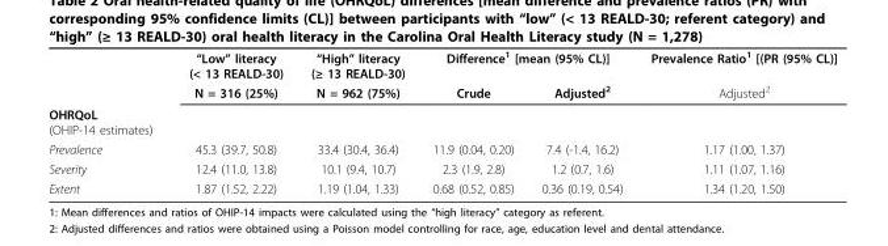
<table><thead><tr><td rowspan="2"></td><td rowspan="2">“Low” literacy (&lt; 13 REALD-30) N = 316 (25%)</td><td rowspan="2">“High” literacy (≥ 13 REALD-30) N = 962 (75%)</td><td colspan="2">Difference<sup>1</sup> [mean (95% CL)]</td><td rowspan="2">Prevalence Ratio1 [(PR (95% CL)] Adjusted2</td></tr><tr><td>Crude</td><td>Adjusted2</td></tr></thead><tbody><tr><td colspan="6">OHRQoL (OHIP-14 estimates)</td></tr><tr><td>Prevalence</td><td>45.3 (39.7, 50.8)</td><td>33.4 (30.4, 36.4)</td><td>11.9 (0.04, 0.20)</td><td>7.4 (-1.4, 16.2)</td><td>1.17 (1.00, 1.37)</td></tr><tr><td>Severity</td><td>12.4 (11.0, 13.8)</td><td>10.1 (9.4, 10.7)</td><td>2.3 (1.9, 2.8)</td><td>1.2 (0.7, 1.6)</td><td>1.11 (1.07, 1.16)</td></tr><tr><td>Extent</td><td>1.87 (1.52, 2.22)</td><td>1.19 (1.04, 1.33)</td><td>0.68 (0.52, 0.85)</td><td>0.36 (0.19, 0.54)</td><td>1.34 (1.20, 1.50)</td></tr></tbody></table>